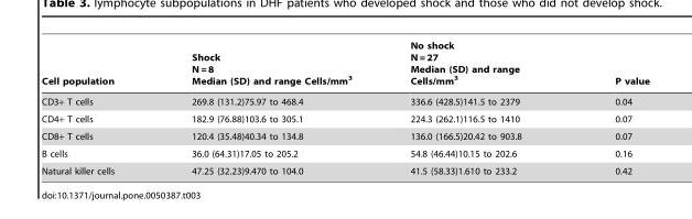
<table><thead><tr><td>Cell population</td><td>Shock N = 8 Median (SD) and range Cells/mm<sup>3</sup></td><td>No shock N = 27 Median (SD) and range Cells/mm<sup>3</sup></td><td>P value</td></tr></thead><tbody><tr><td>CD3+ T cells</td><td>269.8 (131.2)75.97 to 468.4</td><td>336.6 (428.5)141.5 to 2379</td><td>0.04</td></tr><tr><td>CD4+ T cells</td><td>182.9 (76.88)103.6 to 305.1</td><td>224.3 (262.1)116.5 to 1410</td><td>0.07</td></tr><tr><td>CD8+ T cells</td><td>120.4 (35.48)40.34 to 134.8</td><td>136.0 (166.5)20.42 to 903.8</td><td>0.07</td></tr><tr><td>B cells</td><td>36.0 (64.31)17.05 to 205.2</td><td>54.8 (46.44)10.15 to 202.6</td><td>0.16</td></tr><tr><td>Natural killer cells</td><td>47.25 (32.23)9.470 to 104.0</td><td>41.5 (58.33)1.610 to 233.2</td><td>0.42</td></tr></tbody></table>